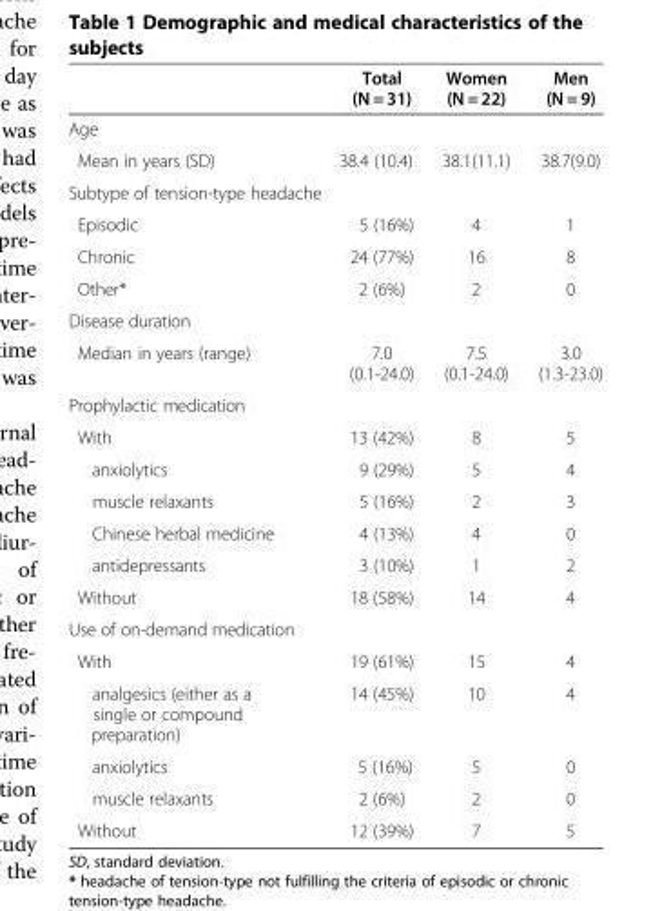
<table><thead><tr><td></td><td>Total (N = 31)</td><td>Women (N = 22)</td><td>Men (N = 9)</td></tr></thead><tbody><tr><td colspan="4">Age</td></tr><tr><td>Mean in years (SD)</td><td>38.4 (10.4)</td><td>38.1(11.1)</td><td>38.7(9.0)</td></tr><tr><td colspan="4">Subtype of tension-type headache</td></tr><tr><td>Episodic</td><td>5 (16%)</td><td>4</td><td>1</td></tr><tr><td>Chronic</td><td>24 (77%)</td><td>16</td><td>8</td></tr><tr><td>Other*</td><td>2 (6%)</td><td>2</td><td>0</td></tr><tr><td colspan="4">Disease duration</td></tr><tr><td>Median in years (range)</td><td>7.0 (0.1-24.0)</td><td>7.5 (0.1-24.0)</td><td>3.0 (1.3-23.0)</td></tr><tr><td colspan="4">Prophylactic medication</td></tr><tr><td>With</td><td>13 (42%)</td><td>8</td><td>5</td></tr><tr><td>anxiolytics</td><td>9 (29%)</td><td>5</td><td>4</td></tr><tr><td>muscle relaxants</td><td>5 (16%)</td><td>2</td><td>3</td></tr><tr><td>Chinese herbal medicine</td><td>4 (13%)</td><td>4</td><td>0</td></tr><tr><td>antidepressants</td><td>3 (10%)</td><td>1</td><td>2</td></tr><tr><td>Without</td><td>18 (58%)</td><td>14</td><td>4</td></tr><tr><td colspan="4">Use of on-demand medication</td></tr><tr><td>With</td><td>19 (61%)</td><td>15</td><td>4</td></tr><tr><td>analgesics (either as a single or compound preparation)</td><td>14 (45%)</td><td>10</td><td>4</td></tr><tr><td>anxiolytics</td><td>5 (16%)</td><td>5</td><td>0</td></tr><tr><td>muscle relaxants</td><td>2 (6%)</td><td>2</td><td>0</td></tr><tr><td>Without</td><td>12 (39%)</td><td>7</td><td>5</td></tr></tbody></table>